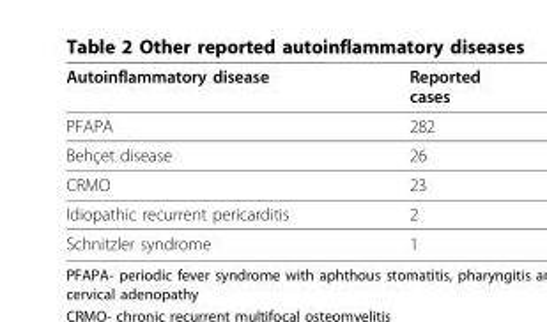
<table><thead><tr><td>Autoinflammatory disease</td><td>Reported cases</td></tr></thead><tbody><tr><td>PFAPA</td><td>282</td></tr><tr><td>Behçet disease</td><td>26</td></tr><tr><td>CRMO</td><td>23</td></tr><tr><td>Idiopathic recurrent pericarditis</td><td>2</td></tr><tr><td>Schnitzler syndrome</td><td>1</td></tr></tbody></table>